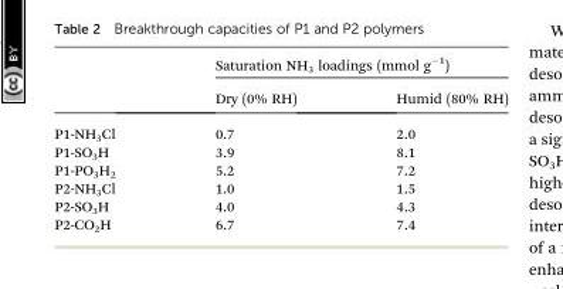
<table><thead><tr><td rowspan="2"></td><td colspan="2">Saturation NH<sub>3</sub> loadings (mmol g<sup>–1</sup>)</td></tr><tr><td>Dry (0% RH)</td><td>Humid (80% RH)</td></tr></thead><tbody><tr><td>P1-NH<sub>3</sub>Cl</td><td>0.7</td><td>2.0</td></tr><tr><td>P1-SO<sub>3</sub>H</td><td>3.9</td><td>8.1</td></tr><tr><td>P1-PO<sub>3</sub>H<sub>2</sub></td><td>5.2</td><td>7.2</td></tr><tr><td>P2-NH<sub>3</sub>Cl</td><td>1.0</td><td>1.5</td></tr><tr><td>P2-SO<sub>3</sub>H</td><td>4.0</td><td>4.3</td></tr><tr><td>P2-CO<sub>2</sub>H</td><td>6.7</td><td>7.4</td></tr></tbody></table>